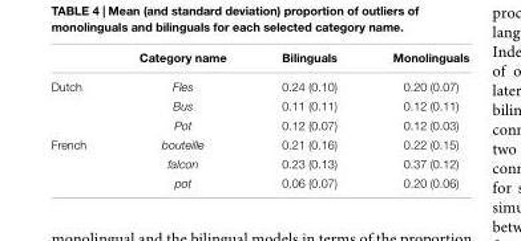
<table><thead><tr><td></td><td>Category name</td><td>Bilinguals</td><td>Monolinguals</td></tr></thead><tbody><tr><td rowspan="3">Dutch</td><td>Fles</td><td>0.24 (0.10)</td><td>0.20 (0.07)</td></tr><tr><td>Bus</td><td>0.11 (0.11)</td><td>0.12 (0.11)</td></tr><tr><td>Pot</td><td>0.12 (0.07)</td><td>0.12 (0.03)</td></tr><tr><td rowspan="3">French</td><td>bouteille</td><td>0.21 (0.16)</td><td>0.22 (0.15)</td></tr><tr><td>falcon</td><td>0.23 (0.13)</td><td>0.37 (0.12)</td></tr><tr><td>pot</td><td>0.06 (0.07)</td><td>0.20 (0.06)</td></tr></tbody></table>